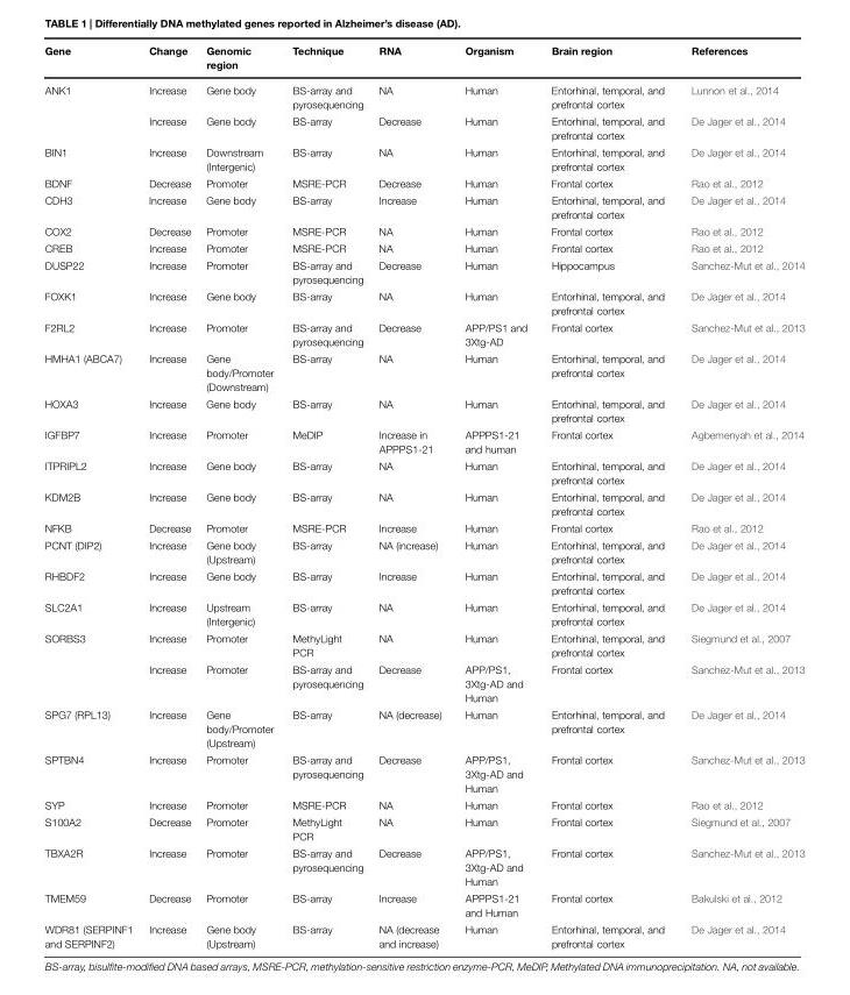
<table><thead><tr><td>Gene</td><td>Change</td><td>Genomic region</td><td>Technique</td><td>RNA</td><td>Organism</td><td>Brain region</td><td>References</td></tr></thead><tbody><tr><td rowspan="2">ANK1</td><td>Increase</td><td>Gene body</td><td>BS-array and pyrosequencing</td><td>NA</td><td>Human</td><td>Entorhinal, temporal, and prefrontal cortex</td><td>Lunnon et al., 2014</td></tr><tr><td>Increase</td><td>Gene body</td><td>BS-array</td><td>Decrease</td><td>Human</td><td>Entorhinal, temporal, and prefrontal cortex</td><td>De Jager et al., 2014</td></tr><tr><td>BIN1</td><td>Increase</td><td>Downstream (Intergenic)</td><td>BS-array</td><td>NA</td><td>Human</td><td>Entorhinal, temporal, and prefrontal cortex</td><td>De Jager et al., 2014</td></tr><tr><td>BDNF</td><td>Decrease</td><td>Promoter</td><td>MSRE-PCR</td><td>Decrease</td><td>Human</td><td>Frontal cortex</td><td>Rao et al., 2012</td></tr><tr><td>CDH3</td><td>Increase</td><td>Gene body</td><td>BS-array</td><td>Increase</td><td>Human</td><td>Entorhinal, temporal, and prefrontal cortex</td><td>De Jager et al., 2014</td></tr><tr><td>COX2</td><td>Decrease</td><td>Promoter</td><td>MSRE-PCR</td><td>NA</td><td>Human</td><td>Frontal cortex</td><td>Rao et al., 2012</td></tr><tr><td>CREB</td><td>Increase</td><td>Promoter</td><td>MSRE-PCR</td><td>NA</td><td>Human</td><td>Frontal cortex</td><td>Rao et al., 2012</td></tr><tr><td>DUSP22</td><td>Increase</td><td>Promoter</td><td>BS-array and pyrosequencing</td><td>Decrease</td><td>Human</td><td>Hippocampus</td><td>Sanchez-Mut et al., 2014</td></tr><tr><td>FOXK1</td><td>Increase</td><td>Gene body</td><td>BS-array</td><td>NA</td><td>Human</td><td>Entorhinal, temporal, and prefrontal cortex</td><td>De Jager et al., 2014</td></tr><tr><td>F2RL2</td><td>Increase</td><td>Promoter</td><td>BS-array and pyrosequencing</td><td>Decrease</td><td>APP/PS1 and 3Xtg-AD</td><td>Frontal cortex</td><td>Sanchez-Mut et al., 2013</td></tr><tr><td>HMHA1 (ABCA7)</td><td>Increase</td><td>Gene body/Promoter (Downstream)</td><td>BS-array</td><td>NA</td><td>Human</td><td>Entorhinal, temporal, and prefrontal cortex</td><td>De Jager et al., 2014</td></tr><tr><td>HOXA3</td><td>Increase</td><td>Gene body</td><td>BS-array</td><td>NA</td><td>Human</td><td>Entorhinal, temporal, and prefrontal cortex</td><td>De Jager et al., 2014</td></tr><tr><td>IGFBP7</td><td>Increase</td><td>Promoter</td><td>MeDIP</td><td>Increase in APPPS1-21</td><td>APPPS1-21 and human</td><td>Frontal cortex</td><td>Agbemenyah et al., 2014</td></tr><tr><td>ITPRIPL2</td><td>Increase</td><td>Gene body</td><td>BS-array</td><td>NA</td><td>Human</td><td>Entorhinal, temporal, and prefrontal cortex</td><td>De Jager et al., 2014</td></tr><tr><td>KDM2B</td><td>Increase</td><td>Gene body</td><td>BS-array</td><td>NA</td><td>Human</td><td>Entorhinal, temporal, and prefrontal cortex</td><td>De Jager et al., 2014</td></tr><tr><td>NFKB</td><td>Decrease</td><td>Promoter</td><td>MSRE-PCR</td><td>Increase</td><td>Human</td><td>Frontal cortex</td><td>Rao et al., 2012</td></tr><tr><td>PCNT (DIP2)</td><td>Increase</td><td>Gene body (Upstream)</td><td>BS-array</td><td>NA (increase)</td><td>Human</td><td>Entorhinal, temporal, and prefrontal cortex</td><td>De Jager et al., 2014</td></tr><tr><td>RHBDF2</td><td>Increase</td><td>Gene body</td><td>BS-array</td><td>Increase</td><td>Human</td><td>Entorhinal, temporal, and prefrontal cortex</td><td>De Jager et al., 2014</td></tr><tr><td>SLC2A1</td><td>Increase</td><td>Upstream (Intergenic)</td><td>BS-array</td><td>NA</td><td>Human</td><td>Entorhinal, temporal, and prefrontal cortex</td><td>De Jager et al., 2014</td></tr><tr><td rowspan="2">SORBS3</td><td>Increase</td><td>Promoter</td><td>MethyLight PCR</td><td>NA</td><td>Human</td><td>Entorhinal, temporal, and prefrontal cortex</td><td>Siegmund et al., 2007</td></tr><tr><td>Increase</td><td>Promoter</td><td>BS-array and pyrosequencing</td><td>Decrease</td><td>APP/PS1, 3Xtg-AD and Human</td><td>Frontal cortex</td><td>Sanchez-Mut et al., 2013</td></tr><tr><td>SPG7 (RPL13)</td><td>Increase</td><td>Gene body/Promoter (Upstream)</td><td>BS-array</td><td>NA (decrease)</td><td>Human</td><td>Entorhinal, temporal, and prefrontal cortex</td><td>De Jager et al., 2014</td></tr><tr><td>SPTBN4</td><td>Increase</td><td>Promoter</td><td>BS-array and pyrosequencing</td><td>Decrease</td><td>APP/PS1, 3Xtg-AD and Human</td><td>Frontal cortex</td><td>Sanchez-Mut et al., 2013</td></tr><tr><td>SYP</td><td>Increase</td><td>Promoter</td><td>MSRE-PCR</td><td>NA</td><td>Human</td><td>Frontal cortex</td><td>Rao et al., 2012</td></tr><tr><td>S100A2</td><td>Decrease</td><td>Promoter</td><td>MethyLight PCR</td><td>NA</td><td>Human</td><td>Frontal cortex</td><td>Siegmund et al., 2007</td></tr><tr><td>TBXA2R</td><td>Increase</td><td>Promoter</td><td>BS-array and pyrosequencing</td><td>Decrease</td><td>APP/PS1, 3Xtg-AD and Human</td><td>Frontal cortex</td><td>Sanchez-Mut et al., 2013</td></tr><tr><td>TMEM59</td><td>Decrease</td><td>Promoter</td><td>BS-array</td><td>Increase</td><td>APPPS1-21 and Human</td><td>Frontal cortex</td><td>Bakulski et al., 2012</td></tr><tr><td>WDR81 (SERPINF1 and SERPINF2)</td><td>Increase</td><td>Gene body (Upstream)</td><td>BS-array</td><td>NA (decrease and increase)</td><td>Human</td><td>Entorhinal, temporal, and prefrontal cortex</td><td>De Jager et al., 2014</td></tr></tbody></table>